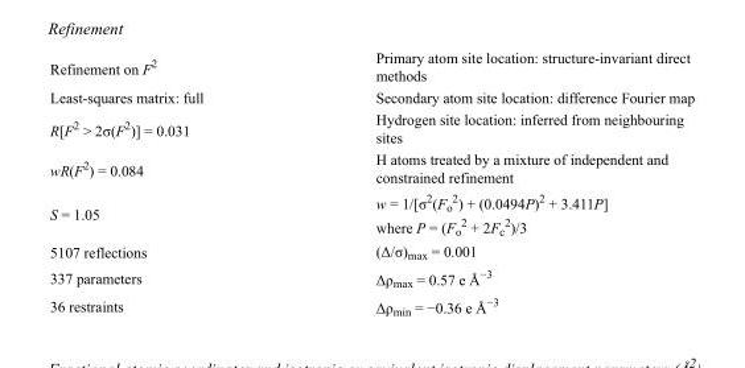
<table><tbody><tr><td>Refinement on F<sup>2</sup></td><td>Primary atom site location: structure-invariant direct methods</td></tr><tr><td>Least-squares matrix: full</td><td>Secondary atom site location: difference Fourier map</td></tr><tr><td>R[F<sup>2</sup> &gt; 2σ(F<sup>2</sup>)] = 0.031</td><td>Hydrogen site location: inferred from neighbouring sites</td></tr><tr><td>wR(F<sup>2</sup>) = 0.084</td><td>H atoms treated by a mixture of independent and constrained refinement</td></tr><tr><td>S = 1.05</td><td>w = 1/[σ<sup>2</sup>(F<sub>o</sub> <sup>2</sup>) + (0.0494P)<sup>2</sup> + 3.411P] where P = (F<sub>o</sub> <sup>2</sup> + 2F<sub>c</sub> <sup>2</sup>)/3</td></tr><tr><td>5107 reflections</td><td>(Δ/σ)<sub>max</sub> = 0.001</td></tr><tr><td>337 parameters</td><td>Δρ<sub>max</sub> = 0.57 e Å<sup>−3</sup></td></tr><tr><td>36 restraints</td><td>Δρ<sub>min</sub> = −0.36 e Å<sup>−3</sup></td></tr></tbody></table>